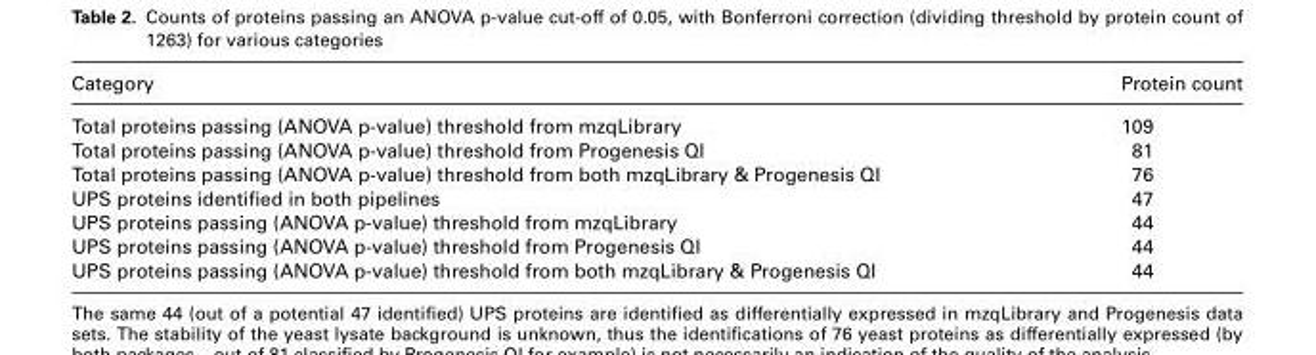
<table><thead><tr><td>Category</td><td>Protein count</td></tr></thead><tbody><tr><td>Total proteins passing (ANOVA p-value) threshold from mzqLibrary</td><td>109</td></tr><tr><td>Total proteins passing (ANOVA p-value) threshold from Progenesis QI</td><td>81</td></tr><tr><td>Total proteins passing (ANOVA p-value) threshold from both mzqLibrary &amp; Progenesis QI</td><td>76</td></tr><tr><td>UPS proteins identified in both pipelines</td><td>47</td></tr><tr><td>UPS proteins passing (ANOVA p-value) threshold from mzqLibrary</td><td>44</td></tr><tr><td>UPS proteins passing (ANOVA p-value) threshold from Progenesis QI</td><td>44</td></tr><tr><td>UPS proteins passing (ANOVA p-value) threshold from both mzqLibrary &amp; Progenesis QI</td><td>44</td></tr></tbody></table>